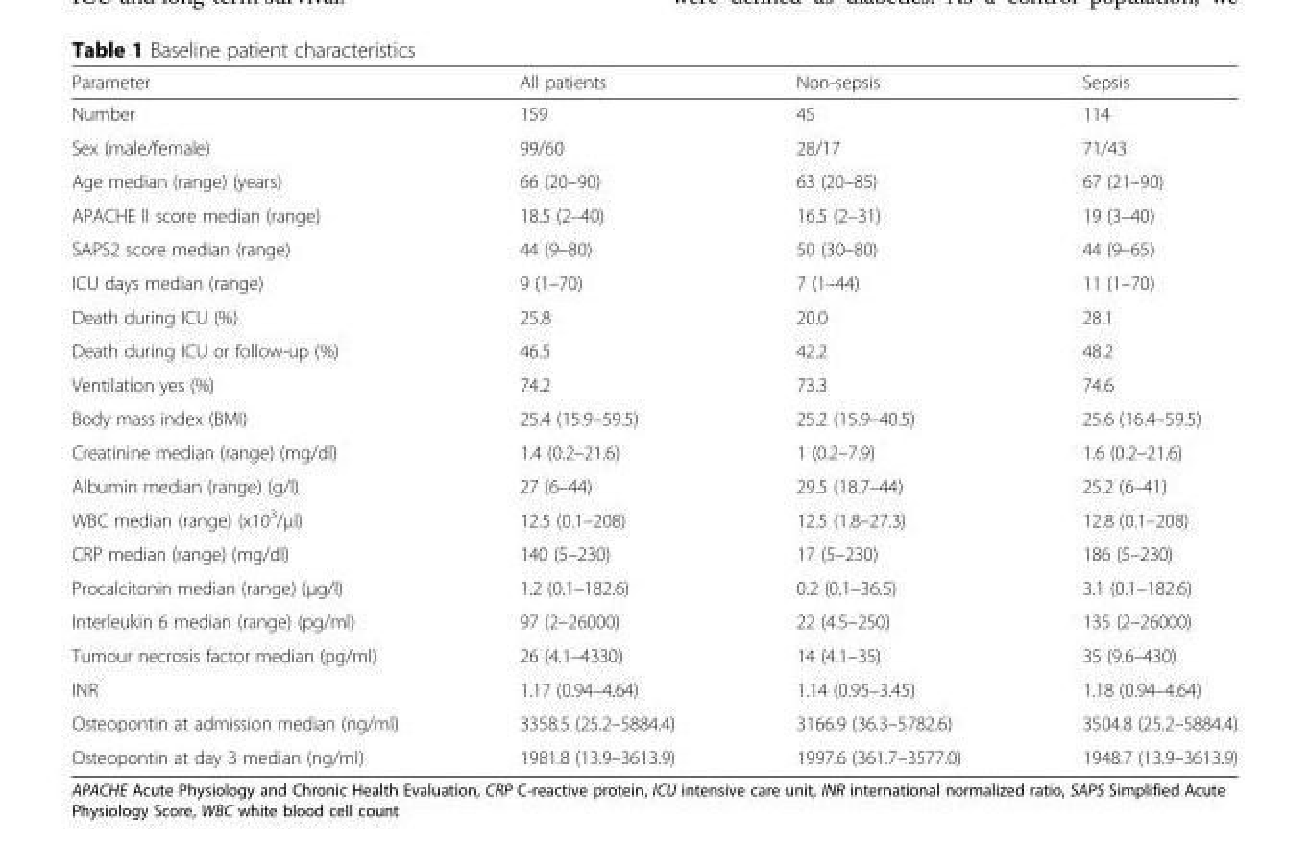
<table><thead><tr><td>Parameter</td><td>All patients</td><td>Non-sepsis</td><td>Sepsis</td></tr></thead><tbody><tr><td>Number</td><td>159</td><td>45</td><td>114</td></tr><tr><td>Sex (male/female)</td><td>99/60</td><td>28/17</td><td>71/43</td></tr><tr><td>Age median (range) (years)</td><td>66 (20–90)</td><td>63 (20–85)</td><td>67 (21–90)</td></tr><tr><td>APACHE II score median (range)</td><td>18.5 (2–40)</td><td>16.5 (2–31)</td><td>19 (3–40)</td></tr><tr><td>SAPS2 score median (range)</td><td>44 (9–80)</td><td>50 (30–80)</td><td>44 (9–65)</td></tr><tr><td>ICU days median (range)</td><td>9 (1–70)</td><td>7 (1–44)</td><td>11 (1–70)</td></tr><tr><td>Death during ICU (%)</td><td>25.8</td><td>20.0</td><td>28.1</td></tr><tr><td>Death during ICU or follow-up (%)</td><td>46.5</td><td>42.2</td><td>48.2</td></tr><tr><td>Ventilation yes (%)</td><td>74.2</td><td>73.3</td><td>74.6</td></tr><tr><td>Body mass index (BMI)</td><td>25.4 (15.9–59.5)</td><td>25.2 (15.9–40.5)</td><td>25.6 (16.4–59.5)</td></tr><tr><td>Creatinine median (range) (mg/dl)</td><td>1.4 (0.2–21.6)</td><td>1 (0.2–7.9)</td><td>1.6 (0.2–21.6)</td></tr><tr><td>Albumin median (range) (g/l)</td><td>27 (6–44)</td><td>29.5 (18.7–44)</td><td>25.2 (6–41)</td></tr><tr><td>WBC median (range) (x10<sup>3</sup>/μl)</td><td>12.5 (0.1–208)</td><td>12.5 (1.8–27.3)</td><td>12.8 (0.1–208)</td></tr><tr><td>CRP median (range) (mg/dl)</td><td>140 (5–230)</td><td>17 (5–230)</td><td>186 (5–230)</td></tr><tr><td>Procalcitonin median (range) (μg/l)</td><td>1.2 (0.1–182.6)</td><td>0.2 (0.1–36.5)</td><td>3.1 (0.1–182.6)</td></tr><tr><td>Interleukin 6 median (range) (pg/ml)</td><td>97 (2–26000)</td><td>22 (4.5–250)</td><td>135 (2–26000)</td></tr><tr><td>Tumour necrosis factor median (pg/ml)</td><td>26 (4.1–4330)</td><td>14 (4.1–35)</td><td>35 (9.6–430)</td></tr><tr><td>INR</td><td>1.17 (0.94–4.64)</td><td>1.14 (0.95–3.45)</td><td>1.18 (0.94–4.64)</td></tr><tr><td>Osteopontin at admission median (ng/ml)</td><td>3358.5 (25.2–5884.4)</td><td>3166.9 (36.3–5782.6)</td><td>3504.8 (25.2–5884.4)</td></tr><tr><td>Osteopontin at day 3 median (ng/ml)</td><td>1981.8 (13.9–3613.9)</td><td>1997.6 (361.7–3577.0)</td><td>1948.7 (13.9–3613.9)</td></tr></tbody></table>